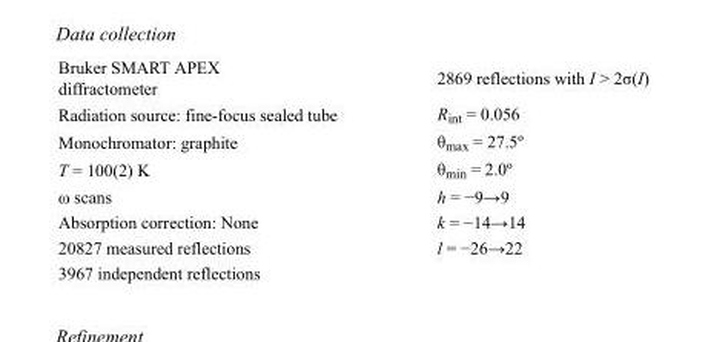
<table><tbody><tr><td>Bruker SMART APEX diffractometer</td><td>2869 reflections with I &gt; 2σ(I)</td></tr><tr><td>Radiation source: fine-focus sealed tube</td><td>R<sub>int</sub> = 0.056</td></tr><tr><td>Monochromator: graphite</td><td>θ<sub>max</sub> = 27.5º</td></tr><tr><td>T = 100(2) K</td><td>θ<sub>min</sub> = 2.0º</td></tr><tr><td>ω scans</td><td>h = −9→9</td></tr><tr><td>Absorption correction: None</td><td>k = −14→14</td></tr><tr><td>20827 measured reflections</td><td>l = −26→22</td></tr><tr><td>3967 independent reflections</td><td></td></tr></tbody></table>